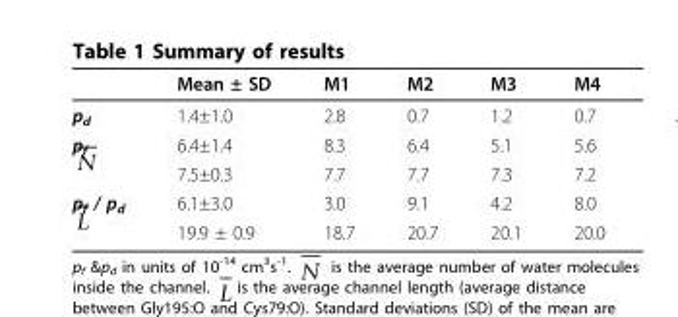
<table><thead><tr><td></td><td>Mean ± SD</td><td>M1</td><td>M2</td><td>M3</td><td>M4</td></tr></thead><tbody><tr><td>p<sub>d</sub></td><td>1.4±1.0</td><td>2.8</td><td>0.7</td><td>1.2</td><td>0.7</td></tr><tr><td rowspan="2">pf N</td><td>6.4±1.4</td><td>8.3</td><td>6.4</td><td>5.1</td><td>5.6</td></tr><tr><td>7.5±0.3</td><td>7.7</td><td>7.7</td><td>7.3</td><td>7.2</td></tr><tr><td rowspan="2">pf / pd L</td><td>6.1±3.0</td><td>3.0</td><td>9.1</td><td>4.2</td><td>8.0</td></tr><tr><td>19.9 ± 0.9</td><td>18.7</td><td>20.7</td><td>20.1</td><td>20.0</td></tr></tbody></table>